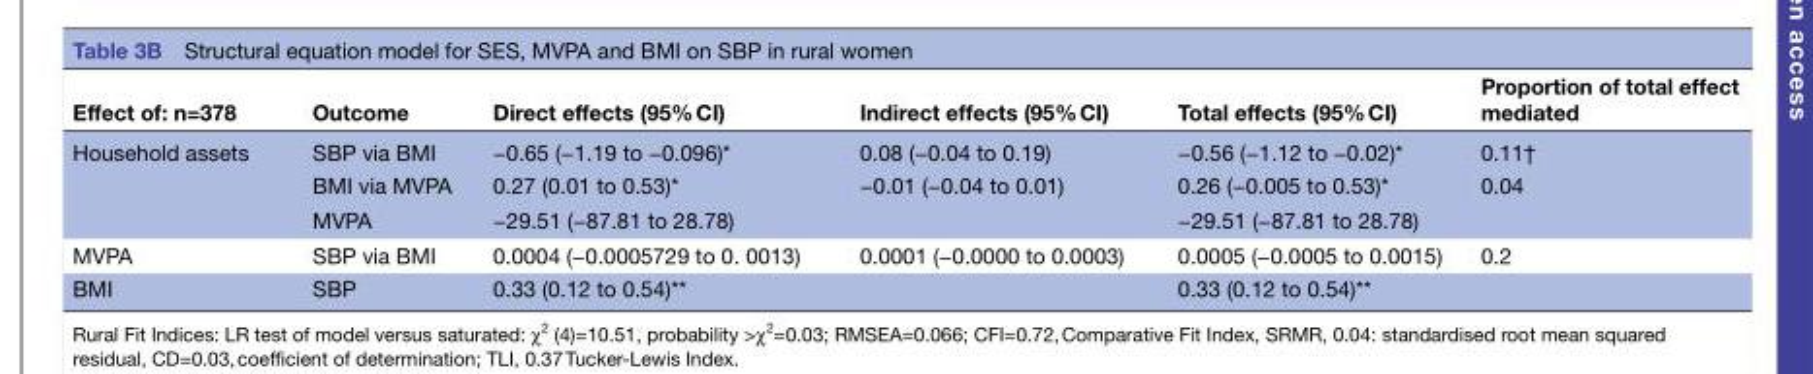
<table><thead><tr><td>Effect of: n=378</td><td>Outcome</td><td>Direct effects (95% CI)</td><td>Indirect effects (95% CI)</td><td>Total effects (95% CI)</td><td>Proportion of total effect mediated</td></tr></thead><tbody><tr><td rowspan="3">Household assets</td><td>SBP via BMI</td><td>−0.65 (−1.19 to −0.096)*</td><td>0.08 (−0.04 to 0.19)</td><td>−0.56 (−1.12 to −0.02)*</td><td>0.11†</td></tr><tr><td>BMI via MVPA</td><td>0.27 (0.01 to 0.53)*</td><td>−0.01 (−0.04 to 0.01)</td><td>0.26 (−0.005 to 0.53)*</td><td>0.04</td></tr><tr><td>MVPA</td><td>−29.51 (−87.81 to 28.78)</td><td></td><td>−29.51 (−87.81 to 28.78)</td><td></td></tr><tr><td>MVPA</td><td>SBP via BMI</td><td>0.0004 (−0.0005729 to 0. 0013)</td><td>0.0001 (−0.0000 to 0.0003)</td><td>0.0005 (−0.0005 to 0.0015)</td><td>0.2</td></tr><tr><td>BMI</td><td>SBP</td><td>0.33 (0.12 to 0.54)**</td><td></td><td>0.33 (0.12 to 0.54)**</td><td></td></tr></tbody></table>